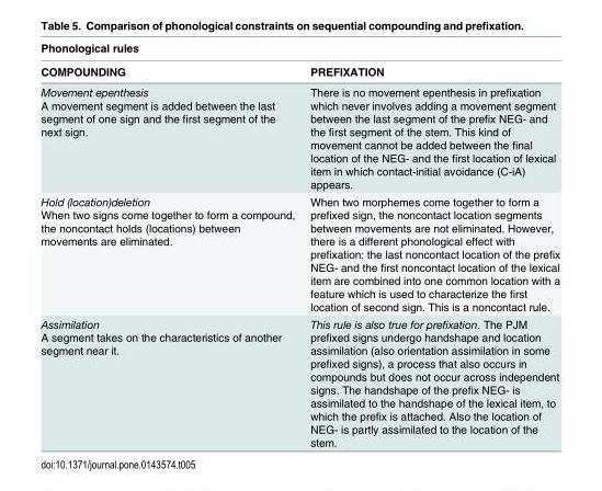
<table><thead><tr><td colspan="2">Phonological rules</td></tr><tr><td>COMPOUNDING</td><td>PREFIXATION</td></tr></thead><tbody><tr><td>Movement epenthesis A movement segment is added between the last segment of one sign and the first segment of the next sign.</td><td>There is no movement epenthesis in prefixation which never involves adding a movement segment between the last segment of the prefix NEG- and the first segment of the stem. This kind of movement cannot be added between the final location of the NEG- and the first location of lexical item in which contact-initial avoidance (C-iA) appears.</td></tr><tr><td>Hold (location)deletion When two signs come together to form a compound, the noncontact holds (locations) between movements are eliminated.</td><td>When two morphemes come together to form a prefixed sign, the noncontact location segments between movements are not eliminated. However, there is a different phonological effect with prefixation: the last noncontact location of the prefix NEG- and the first noncontact location of the lexical item are combined into one common location with a feature which is used to characterize the first location of second sign. This is a noncontact rule.</td></tr><tr><td>Assimilation A segment takes on the characteristics of another segment near it.</td><td>This rule is also true for prefixation. The PJM prefixed signs undergo handshape and location assimilation (also orientation assimilation in some prefixed signs), a process that also occurs in compounds but does not occur across independent signs. The handshape of the prefix NEG- is assimilated to the handshape of the lexical item, to which the prefix is attached. Also the location of NEG- is partly assimilated to the location of the stem.</td></tr></tbody></table>